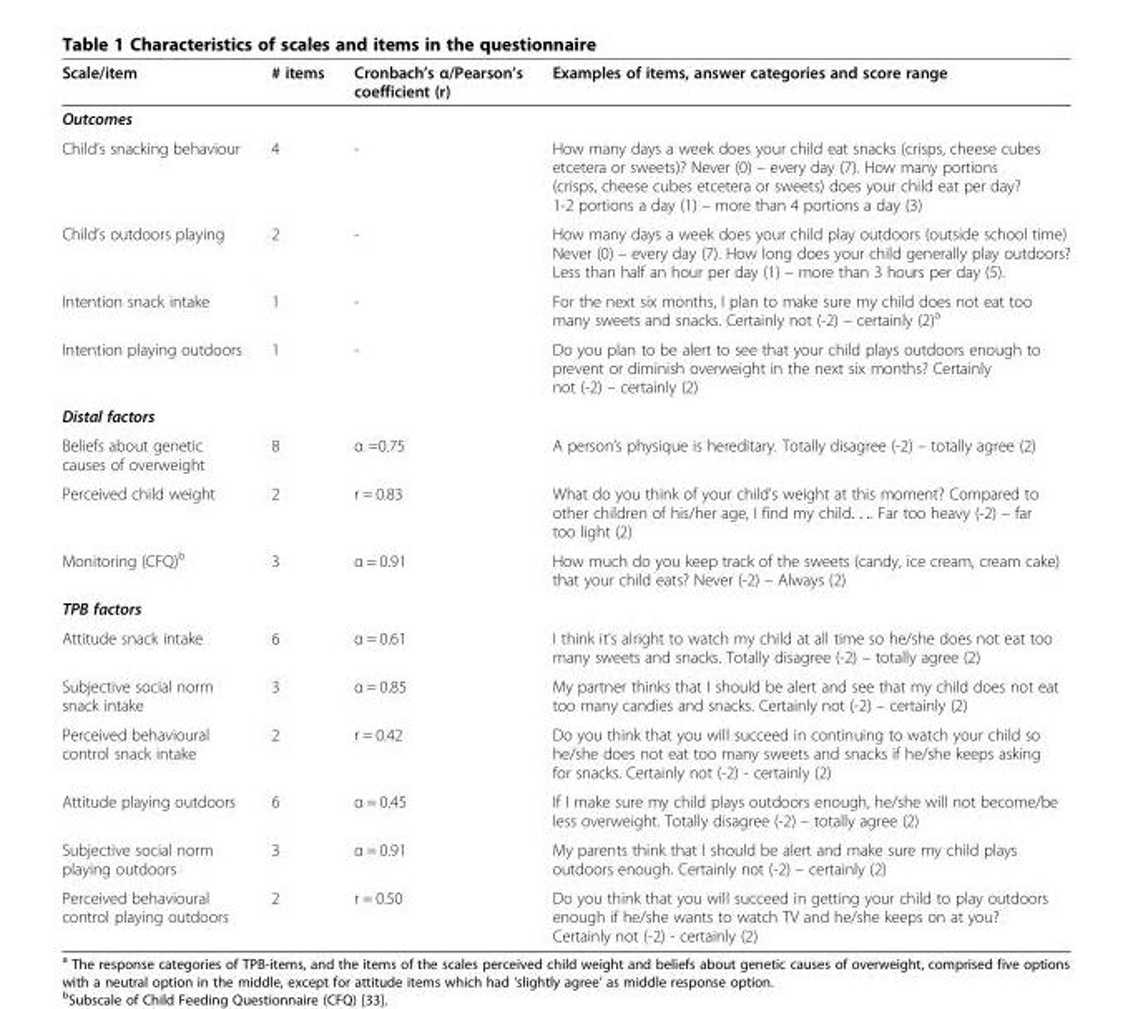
<table><thead><tr><td>Scale/item</td><td># items</td><td>Cronbach’s α/Pearson’s coefficient (r)</td><td>Examples of items, answer categories and score range</td></tr></thead><tbody><tr><td colspan="4">Outcomes</td></tr><tr><td>Child’s snacking behaviour</td><td>4</td><td>-</td><td>How many days a week does your child eat snacks (crisps, cheese cubes etcetera or sweets)? Never (0) – every day (7). How many portions (crisps, cheese cubes etcetera or sweets) does your child eat per day? 1-2 portions a day (1) – more than 4 portions a day (3)</td></tr><tr><td>Child’s outdoors playing</td><td>2</td><td>-</td><td>How many days a week does your child play outdoors (outside school time) Never (0) – every day (7). How long does your child generally play outdoors? Less than half an hour per day (1) – more than 3 hours per day (5).</td></tr><tr><td>Intention snack intake</td><td>1</td><td>-</td><td>For the next six months, I plan to make sure my child does not eat too many sweets and snacks. Certainly not (-2) – certainly (2)<sup>a</sup></td></tr><tr><td>Intention playing outdoors</td><td>1</td><td>-</td><td>Do you plan to be alert to see that your child plays outdoors enough to prevent or diminish overweight in the next six months? Certainly not (-2) – certainly (2)</td></tr><tr><td colspan="4">Distal factors</td></tr><tr><td>Beliefs about genetic causes of overweight</td><td>8</td><td>α =0.75</td><td>A person’s physique is hereditary. Totally disagree (-2) – totally agree (2)</td></tr><tr><td>Perceived child weight</td><td>2</td><td>r = 0.83</td><td>What do you think of your child’s weight at this moment? Compared to other children of his/her age, I find my child. . .. Far too heavy (-2) – far too light (2)</td></tr><tr><td>Monitoring (CFQ)<sup>b</sup></td><td>3</td><td>α = 0.91</td><td>How much do you keep track of the sweets (candy, ice cream, cream cake) that your child eats? Never (-2) – Always (2)</td></tr><tr><td colspan="4">TPB factors</td></tr><tr><td>Attitude snack intake</td><td>6</td><td>α = 0.61</td><td>I think it’s alright to watch my child at all time so he/she does not eat too many sweets and snacks. Totally disagree (-2) – totally agree (2)</td></tr><tr><td>Subjective social norm snack intake</td><td>3</td><td>α = 0.85</td><td>My partner thinks that I should be alert and see that my child does not eat too many candies and snacks. Certainly not (-2) – certainly (2)</td></tr><tr><td>Perceived behavioural control snack intake</td><td>2</td><td>r = 0.42</td><td>Do you think that you will succeed in continuing to watch your child so he/she does not eat too many sweets and snacks if he/she keeps asking for snacks. Certainly not (-2) - certainly (2)</td></tr><tr><td>Attitude playing outdoors</td><td>6</td><td>α = 0.45</td><td>If I make sure my child plays outdoors enough, he/she will not become/be less overweight. Totally disagree (-2) – totally agree (2)</td></tr><tr><td>Subjective social norm playing outdoors</td><td>3</td><td>α = 0.91</td><td>My parents think that I should be alert and make sure my child plays outdoors enough. Certainly not (-2) – certainly (2)</td></tr><tr><td>Perceived behavioural control playing outdoors</td><td>2</td><td>r = 0.50</td><td>Do you think that you will succeed in getting your child to play outdoors enough if he/she wants to watch TV and he/she keeps on at you? Certainly not (-2) - certainly (2)</td></tr></tbody></table>